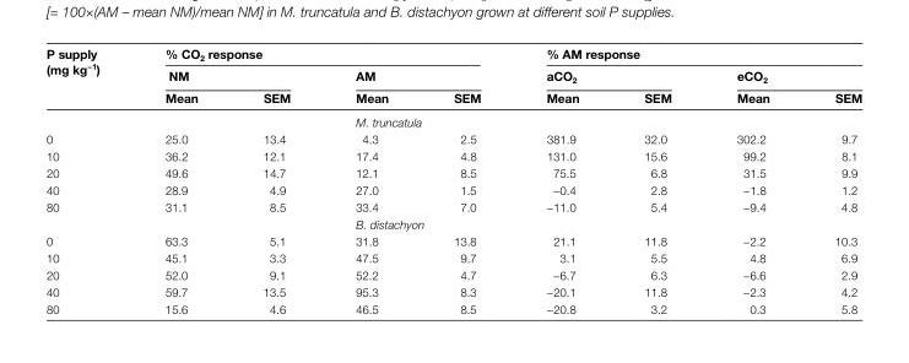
<table><thead><tr><td rowspan="3">P supply (mg kg<sup>−1</sup>)</td><td colspan="3">% CO<sub>2</sub> response</td><td></td><td colspan="4">% AM response</td></tr><tr><td colspan="2">NM</td><td colspan="2">AM</td><td colspan="2">aCO<sub>2</sub></td><td colspan="2">eCO<sub>2</sub></td></tr><tr><td>Mean</td><td>SEM</td><td>Mean</td><td>SEM</td><td>Mean</td><td>SEM</td><td>Mean</td><td>SEM</td></tr></thead><tbody><tr><td></td><td></td><td></td><td colspan="5">M. truncatula</td><td></td></tr><tr><td>0</td><td>25.0</td><td>13.4</td><td>4.3</td><td>2.5</td><td>381.9</td><td>32.0</td><td>302.2</td><td>9.7</td></tr><tr><td>10</td><td>36.2</td><td>12.1</td><td>17.4</td><td>4.8</td><td>131.0</td><td>15.6</td><td>99.2</td><td>8.1</td></tr><tr><td>20</td><td>49.6</td><td>14.7</td><td>12.1</td><td>8.5</td><td>75.5</td><td>6.8</td><td>31.5</td><td>9.9</td></tr><tr><td>40</td><td>28.9</td><td>4.9</td><td>27.0</td><td>1.5</td><td>−0.4</td><td>2.8</td><td>−1.8</td><td>1.2</td></tr><tr><td rowspan="2">80</td><td>31.1</td><td>8.5</td><td>33.4</td><td>7.0</td><td>−11.0</td><td>5.4</td><td>−9.4</td><td>4.8</td></tr><tr><td></td><td></td><td colspan="5">B. distachyon</td><td></td></tr><tr><td>0</td><td>63.3</td><td>5.1</td><td>31.8</td><td>13.8</td><td>21.1</td><td>11.8</td><td>−2.2</td><td>10.3</td></tr><tr><td>10</td><td>45.1</td><td>3.3</td><td>47.5</td><td>9.7</td><td>3.1</td><td>5.5</td><td>4.8</td><td>6.9</td></tr><tr><td>20</td><td>52.0</td><td>9.1</td><td>52.2</td><td>4.7</td><td>−6.7</td><td>6.3</td><td>−6.6</td><td>2.9</td></tr><tr><td>40</td><td>59.7</td><td>13.5</td><td>95.3</td><td>8.3</td><td>−20.1</td><td>11.8</td><td>−2.3</td><td>4.2</td></tr><tr><td>80</td><td>15.6</td><td>4.6</td><td>46.5</td><td>8.5</td><td>−20.8</td><td>3.2</td><td>0.3</td><td>5.8</td></tr></tbody></table>